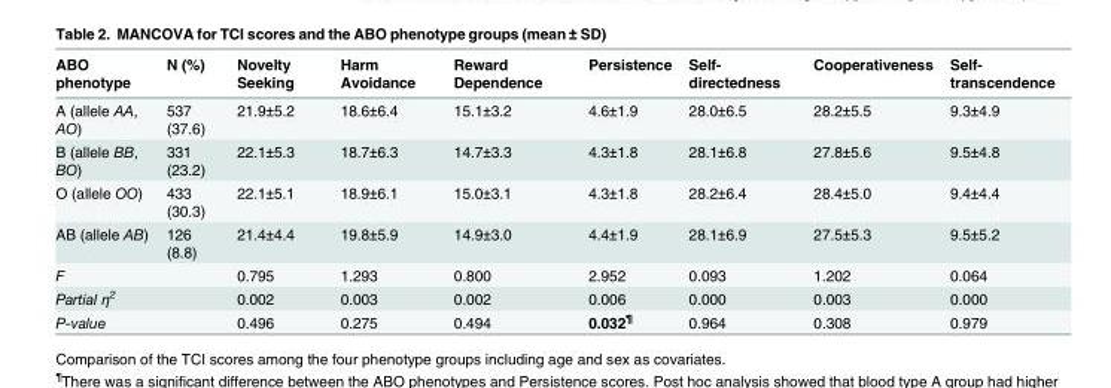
<table><thead><tr><td>ABO phenotype</td><td>N (%)</td><td>Novelty Seeking</td><td>Harm Avoidance</td><td>Reward Dependence</td><td>Persistence</td><td>Self- directedness</td><td>Cooperativeness</td><td>Self- transcendence</td></tr></thead><tbody><tr><td>A (allele AA, AO)</td><td>537 (37.6)</td><td>21.9±5.2</td><td>18.6±6.4</td><td>15.1±3.2</td><td>4.6±1.9</td><td>28.0±6.5</td><td>28.2±5.5</td><td>9.3±4.9</td></tr><tr><td>B (allele BB, BO)</td><td>331 (23.2)</td><td>22.1±5.3</td><td>18.7±6.3</td><td>14.7±3.3</td><td>4.3±1.8</td><td>28.1±6.8</td><td>27.8±5.6</td><td>9.5±4.8</td></tr><tr><td>O (allele OO)</td><td>433 (30.3)</td><td>22.1±5.1</td><td>18.9±6.1</td><td>15.0±3.1</td><td>4.3±1.8</td><td>28.2±6.4</td><td>28.4±5.0</td><td>9.4±4.4</td></tr><tr><td>AB (allele AB)</td><td>126 (8.8)</td><td>21.4±4.4</td><td>19.8±5.9</td><td>14.9±3.0</td><td>4.4±1.9</td><td>28.1±6.9</td><td>27.5±5.3</td><td>9.5±5.2</td></tr><tr><td>F</td><td></td><td>0.795</td><td>1.293</td><td>0.800</td><td>2.952</td><td>0.093</td><td>1.202</td><td>0.064</td></tr><tr><td>Partial η<sup>2</sup></td><td></td><td>0.002</td><td>0.003</td><td>0.002</td><td>0.006</td><td>0.000</td><td>0.003</td><td>0.000</td></tr><tr><td>P-value</td><td></td><td>0.496</td><td>0.275</td><td>0.494</td><td>0.032<sup>¶</sup></td><td>0.964</td><td>0.308</td><td>0.979</td></tr></tbody></table>